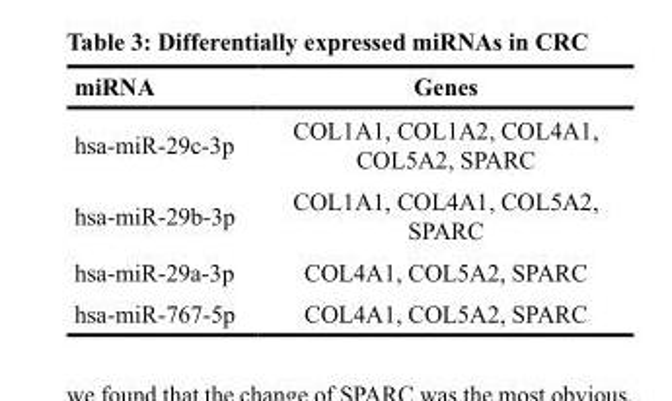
<table><thead><tr><td>miRNA</td><td>Genes</td></tr></thead><tbody><tr><td>hsa-miR-29c-3p</td><td>COL1A1, COL1A2, COL4A1, COL5A2, SPARC</td></tr><tr><td>hsa-miR-29b-3p</td><td>COL1A1, COL4A1, COL5A2, SPARC</td></tr><tr><td>hsa-miR-29a-3p</td><td>COL4A1, COL5A2, SPARC</td></tr><tr><td>hsa-miR-767-5p</td><td>COL4A1, COL5A2, SPARC</td></tr></tbody></table>